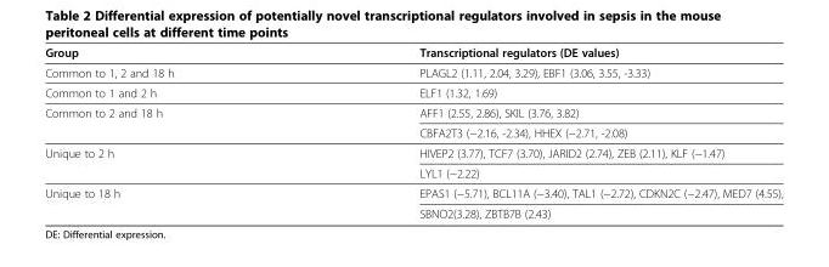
<table><thead><tr><td>Group</td><td>Transcriptional regulators (DE values)</td></tr></thead><tbody><tr><td>Common to 1, 2 and 18 h</td><td>PLAGL2 (1.11, 2.04, 3.29), EBF1 (3.06, 3.55, -3.33)</td></tr><tr><td>Common to 1 and 2 h</td><td>ELF1 (1.32, 1.69)</td></tr><tr><td rowspan="2">Common to 2 and 18 h</td><td>AFF1 (2.55, 2.86), SKIL (3.76, 3.82)</td></tr><tr><td>CBFA2T3 (−2.16, -2.34), HHEX (−2.71, -2.08)</td></tr><tr><td rowspan="2">Unique to 2 h</td><td>HIVEP2 (3.77), TCF7 (3.70), JARID2 (2.74), ZEB (2.11), KLF (−1.47)</td></tr><tr><td>LYL1 (−2.22)</td></tr><tr><td rowspan="2">Unique to 18 h</td><td>EPAS1 (−5.71), BCL11A (−3.40), TAL1 (−2.72), CDKN2C (−2.47), MED7 (4.55),</td></tr><tr><td>SBNO2(3.28), ZBTB7B (2.43)</td></tr></tbody></table>